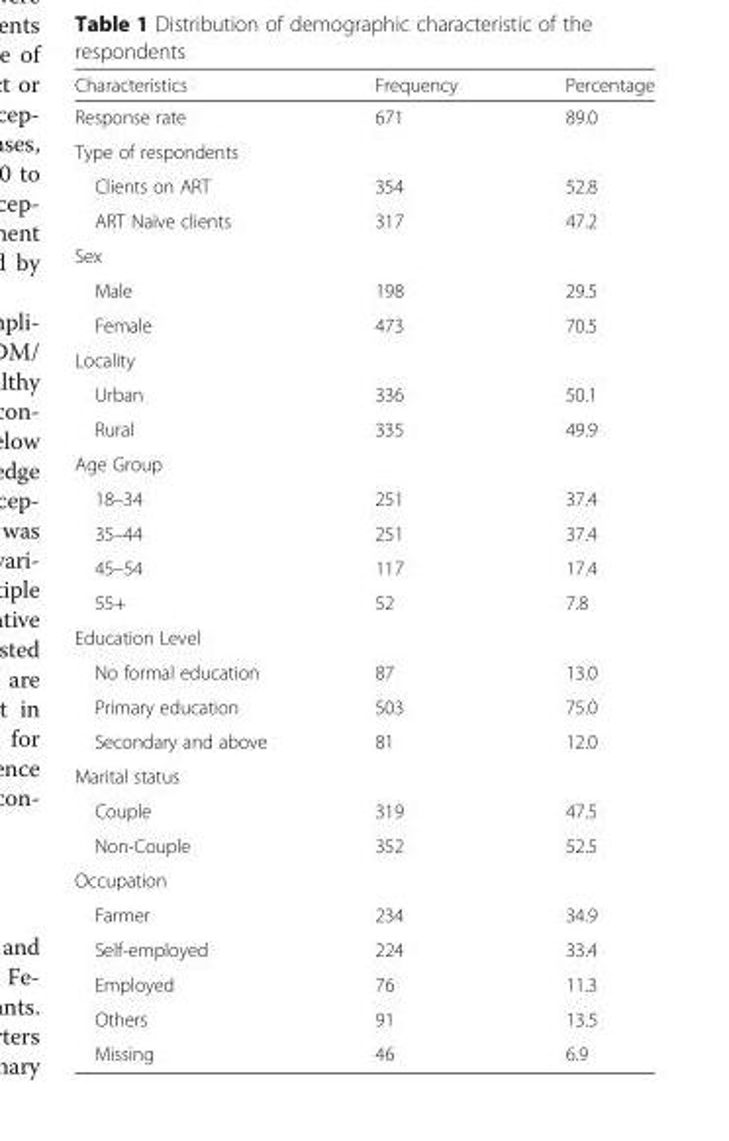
<table><thead><tr><td>Characteristics</td><td>Frequency</td><td>Percentage</td></tr></thead><tbody><tr><td>Response rate</td><td>671</td><td>89.0</td></tr><tr><td colspan="3">Type of respondents</td></tr><tr><td>Clients on ART</td><td>354</td><td>52.8</td></tr><tr><td>ART Naïve clients</td><td>317</td><td>47.2</td></tr><tr><td colspan="3">Sex</td></tr><tr><td>Male</td><td>198</td><td>29.5</td></tr><tr><td>Female</td><td>473</td><td>70.5</td></tr><tr><td colspan="3">Locality</td></tr><tr><td>Urban</td><td>336</td><td>50.1</td></tr><tr><td>Rural</td><td>335</td><td>49.9</td></tr><tr><td colspan="3">Age Group</td></tr><tr><td>18–34</td><td>251</td><td>37.4</td></tr><tr><td>35–44</td><td>251</td><td>37.4</td></tr><tr><td>45–54</td><td>117</td><td>17.4</td></tr><tr><td>55+</td><td>52</td><td>7.8</td></tr><tr><td colspan="3">Education Level</td></tr><tr><td>No formal education</td><td>87</td><td>13.0</td></tr><tr><td>Primary education</td><td>503</td><td>75.0</td></tr><tr><td>Secondary and above</td><td>81</td><td>12.0</td></tr><tr><td colspan="3">Marital status</td></tr><tr><td>Couple</td><td>319</td><td>47.5</td></tr><tr><td>Non-Couple</td><td>352</td><td>52.5</td></tr><tr><td colspan="3">Occupation</td></tr><tr><td>Farmer</td><td>234</td><td>34.9</td></tr><tr><td>Self-employed</td><td>224</td><td>33.4</td></tr><tr><td>Employed</td><td>76</td><td>11.3</td></tr><tr><td>Others</td><td>91</td><td>13.5</td></tr><tr><td>Missing</td><td>46</td><td>6.9</td></tr></tbody></table>